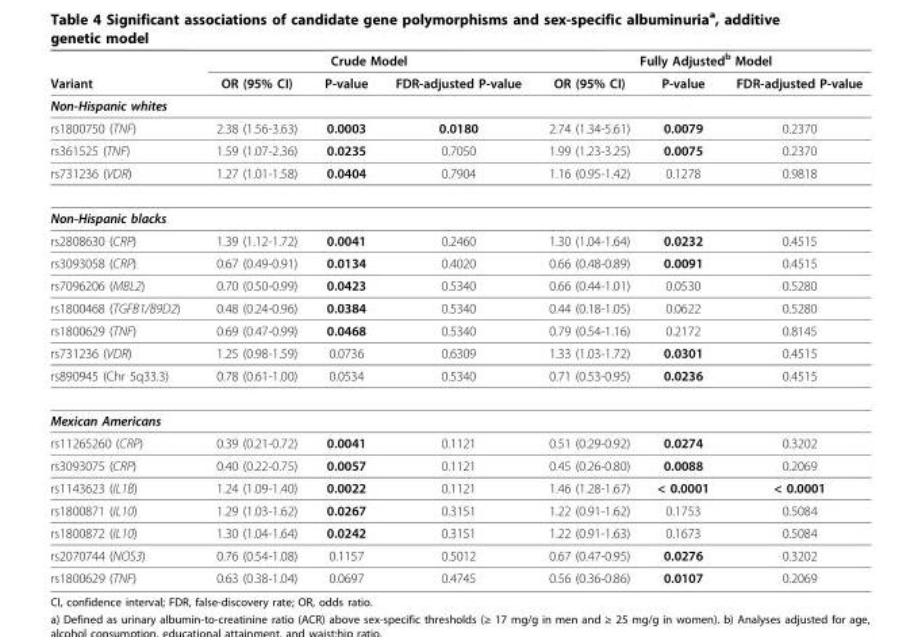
<table><thead><tr><td rowspan="2">Variant</td><td colspan="3">Crude Model</td><td colspan="3">Fully Adjustedb Model</td></tr><tr><td>OR (95% CI)</td><td>P-value</td><td>FDR-adjusted P-value</td><td>OR (95% CI)</td><td>P-value</td><td>FDR-adjusted P-value</td></tr></thead><tbody><tr><td colspan="7">Non-Hispanic whites</td></tr><tr><td>rs1800750 (TNF)</td><td>2.38 (1.56-3.63)</td><td>0.0003</td><td>0.0180</td><td>2.74 (1.34-5.61)</td><td>0.0079</td><td>0.2370</td></tr><tr><td>rs361525 (TNF)</td><td>1.59 (1.07-2.36)</td><td>0.0235</td><td>0.7050</td><td>1.99 (1.23-3.25)</td><td>0.0075</td><td>0.2370</td></tr><tr><td>rs731236 (VDR)</td><td>1.27 (1.01-1.58)</td><td>0.0404</td><td>0.7904</td><td>1.16 (0.95-1.42)</td><td>0.1278</td><td>0.9818</td></tr><tr><td colspan="7">Non-Hispanic blacks</td></tr><tr><td>rs2808630 (CRP)</td><td>1.39 (1.12-1.72)</td><td>0.0041</td><td>0.2460</td><td>1.30 (1.04-1.64)</td><td>0.0232</td><td>0.4515</td></tr><tr><td>rs3093058 (CRP)</td><td>0.67 (0.49-0.91)</td><td>0.0134</td><td>0.4020</td><td>0.66 (0.48-0.89)</td><td>0.0091</td><td>0.4515</td></tr><tr><td>rs7096206 (MBL2)</td><td>0.70 (0.50-0.99)</td><td>0.0423</td><td>0.5340</td><td>0.66 (0.44-1.01)</td><td>0.0530</td><td>0.5280</td></tr><tr><td>rs1800468 (TGFB1/B9D2)</td><td>0.48 (0.24-0.96)</td><td>0.0384</td><td>0.5340</td><td>0.44 (0.18-1.05)</td><td>0.0622</td><td>0.5280</td></tr><tr><td>rs1800629 (TNF)</td><td>0.69 (0.47-0.99)</td><td>0.0468</td><td>0.5340</td><td>0.79 (0.54-1.16)</td><td>0.2172</td><td>0.8145</td></tr><tr><td>rs731236 (VDR)</td><td>1.25 (0.98-1.59)</td><td>0.0736</td><td>0.6309</td><td>1.33 (1.03-1.72)</td><td>0.0301</td><td>0.4515</td></tr><tr><td>rs890945 (Chr 5q33.3)</td><td>0.78 (0.61-1.00)</td><td>0.0534</td><td>0.5340</td><td>0.71 (0.53-0.95)</td><td>0.0236</td><td>0.4515</td></tr><tr><td colspan="7">Mexican Americans</td></tr><tr><td>rs11265260 (CRP)</td><td>0.39 (0.21-0.72)</td><td>0.0041</td><td>0.1121</td><td>0.51 (0.29-0.92)</td><td>0.0274</td><td>0.3202</td></tr><tr><td>rs3093075 (CRP)</td><td>0.40 (0.22-0.75)</td><td>0.0057</td><td>0.1121</td><td>0.45 (0.26-0.80)</td><td>0.0088</td><td>0.2069</td></tr><tr><td>rs1143623 (IL1B)</td><td>1.24 (1.09-1.40)</td><td>0.0022</td><td>0.1121</td><td>1.46 (1.28-1.67)</td><td>&lt; 0.0001</td><td>&lt; 0.0001</td></tr><tr><td>rs1800871 (IL10)</td><td>1.29 (1.03-1.62)</td><td>0.0267</td><td>0.3151</td><td>1.22 (0.91-1.62)</td><td>0.1753</td><td>0.5084</td></tr><tr><td>rs1800872 (IL10)</td><td>1.30 (1.04-1.64)</td><td>0.0242</td><td>0.3151</td><td>1.22 (0.91-1.63)</td><td>0.1673</td><td>0.5084</td></tr><tr><td>rs2070744 (NOS3)</td><td>0.76 (0.54-1.08)</td><td>0.1157</td><td>0.5012</td><td>0.67 (0.47-0.95)</td><td>0.0276</td><td>0.3202</td></tr><tr><td>rs1800629 (TNF)</td><td>0.63 (0.38-1.04)</td><td>0.0697</td><td>0.4745</td><td>0.56 (0.36-0.86)</td><td>0.0107</td><td>0.2069</td></tr></tbody></table>